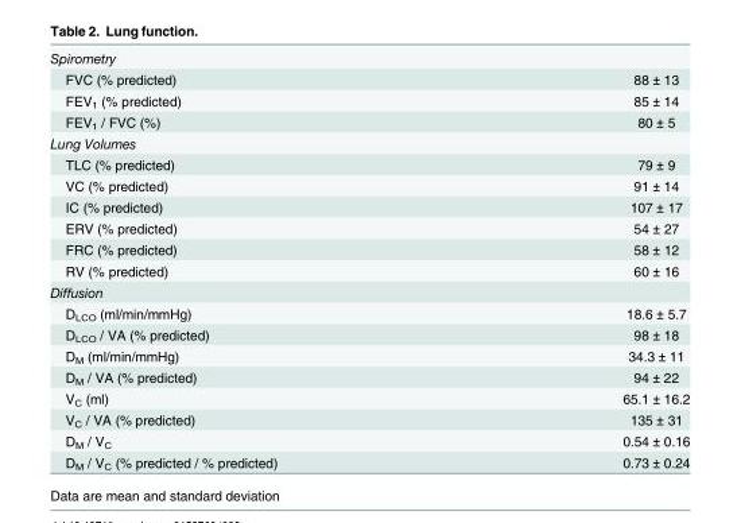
<table><tbody><tr><td colspan="2">Spirometry</td></tr><tr><td>FVC (% predicted)</td><td>88 ± 13</td></tr><tr><td>FEV<sub>1</sub> (% predicted)</td><td>85 ± 14</td></tr><tr><td>FEV<sub>1</sub> / FVC (%)</td><td>80 ± 5</td></tr><tr><td colspan="2">Lung Volumes</td></tr><tr><td>TLC (% predicted)</td><td>79 ± 9</td></tr><tr><td>VC (% predicted)</td><td>91 ± 14</td></tr><tr><td>IC (% predicted)</td><td>107 ± 17</td></tr><tr><td>ERV (% predicted)</td><td>54 ± 27</td></tr><tr><td>FRC (% predicted)</td><td>58 ± 12</td></tr><tr><td>RV (% predicted)</td><td>60 ± 16</td></tr><tr><td colspan="2">Diffusion</td></tr><tr><td>D<sub>LCO</sub> (ml/min/mmHg)</td><td>18.6 ± 5.7</td></tr><tr><td>D<sub>LCO</sub> / VA (% predicted)</td><td>98 ± 18</td></tr><tr><td>D<sub>M</sub> (ml/min/mmHg)</td><td>34.3 ± 11</td></tr><tr><td>D<sub>M</sub> / VA (% predicted)</td><td>94 ± 22</td></tr><tr><td>V<sub>C</sub> (ml)</td><td>65.1 ± 16.2</td></tr><tr><td>V<sub>C</sub> / VA (% predicted)</td><td>135 ± 31</td></tr><tr><td>D<sub>M</sub> / V<sub>C</sub></td><td>0.54 ± 0.16</td></tr><tr><td>D<sub>M</sub> / V<sub>C</sub> (% predicted / % predicted)</td><td>0.73 ± 0.24</td></tr></tbody></table>